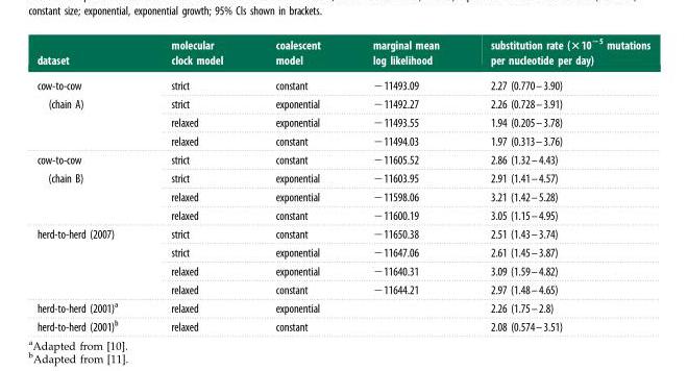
<table><thead><tr><td>dataset</td><td>molecular clock model</td><td>coalescent model</td><td>marginal mean log likelihood</td><td>substitution rate (×10<sup>−5</sup> mutations per nucleotide per day)</td></tr></thead><tbody><tr><td rowspan="4">cow-to-cow (chain A)</td><td>strict</td><td>constant</td><td>−11493.09</td><td>2.27 (0.770–3.90)</td></tr><tr><td>strict</td><td>exponential</td><td>−11492.27</td><td>2.26 (0.728–3.91)</td></tr><tr><td>relaxed</td><td>exponential</td><td>−11493.55</td><td>1.94 (0.205–3.78)</td></tr><tr><td>relaxed</td><td>constant</td><td>−11494.03</td><td>1.97 (0.313–3.76)</td></tr><tr><td rowspan="4">cow-to-cow (chain B)</td><td>strict</td><td>constant</td><td>−11605.52</td><td>2.86 (1.32–4.43)</td></tr><tr><td>strict</td><td>exponential</td><td>−11603.95</td><td>2.91 (1.41–4.57)</td></tr><tr><td>relaxed</td><td>exponential</td><td>−11598.06</td><td>3.21 (1.42–5.28)</td></tr><tr><td>relaxed</td><td>constant</td><td>−11600.19</td><td>3.05 (1.15–4.95)</td></tr><tr><td rowspan="4">herd-to-herd (2007)</td><td>strict</td><td>constant</td><td>−11650.38</td><td>2.51 (1.43–3.74)</td></tr><tr><td>strict</td><td>exponential</td><td>−11647.06</td><td>2.61 (1.45–3.87)</td></tr><tr><td>relaxed</td><td>exponential</td><td>−11640.31</td><td>3.09 (1.59–4.82)</td></tr><tr><td>relaxed</td><td>constant</td><td>−11644.21</td><td>2.97 (1.48–4.65)</td></tr><tr><td>herd-to-herd (2001)<sup>a</sup></td><td>relaxed</td><td>exponential</td><td></td><td>2.26 (1.75–2.8)</td></tr><tr><td>herd-to-herd (2001)<sup>b</sup></td><td>relaxed</td><td>constant</td><td></td><td>2.08 (0.574–3.51)</td></tr></tbody></table>